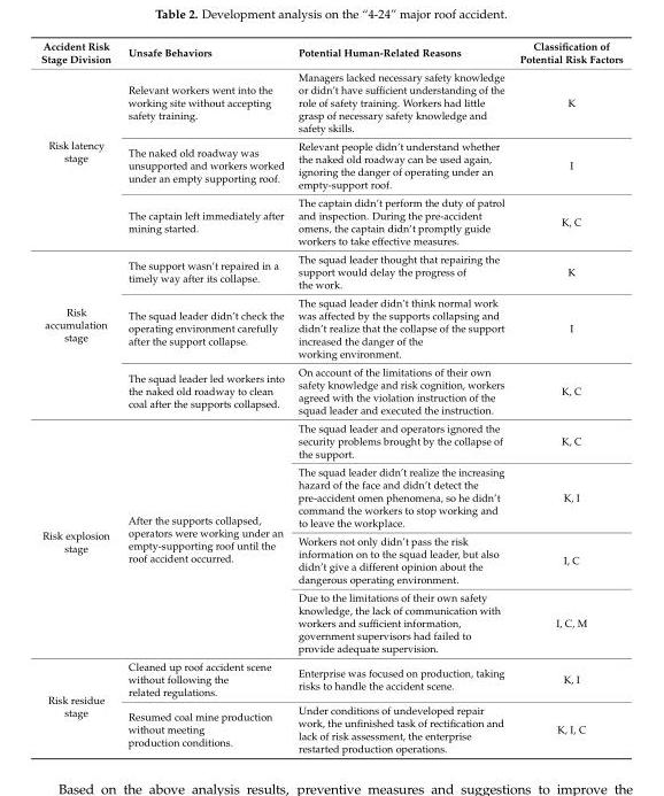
<table><thead><tr><td>Accident Risk Stage Division</td><td>Unsafe Behaviors</td><td>Potential Human-Related Reasons</td><td>Classification of Potential Risk Factors</td></tr></thead><tbody><tr><td rowspan="3">Risk latency stage</td><td>Relevant workers went into the working site without accepting safety training.</td><td>Managers lacked necessary safety knowledge or didn’t have sufficient understanding of the role of safety training. Workers had little grasp of necessary safety knowledge and safety skills.</td><td>K</td></tr><tr><td>The naked old roadway was unsupported and workers worked under an empty supporting roof.</td><td>Relevant people didn’t understand whether the naked old roadway can be used again, ignoring the danger of operating under an empty-support roof.</td><td>I</td></tr><tr><td>The captain left immediately after mining started.</td><td>The captain didn’t perform the duty of patrol and inspection. During the pre-accident omens, the captain didn’t promptly guide workers to take effective measures.</td><td>K, C</td></tr><tr><td rowspan="3">Risk accumulation stage</td><td>The support wasn’t repaired in a timely way after its collapse.</td><td>The squad leader thought that repairing the support would delay the progress of the work.</td><td>K</td></tr><tr><td>The squad leader didn’t check the operating environment carefully after the support collapse.</td><td>The squad leader didn’t think normal work was affected by the supports collapsing and didn’t realize that the collapse of the support increased the danger of the working environment.</td><td>I</td></tr><tr><td>The squad leader led workers into the naked old roadway to clean coal after the supports collapsed.</td><td>On account of the limitations of their own safety knowledge and risk cognition, workers agreed with the violation instruction of the squad leader and executed the instruction.</td><td>K, C</td></tr><tr><td rowspan="4">Risk explosion stage</td><td rowspan="4">After the supports collapsed, operators were working under an empty-supporting roof until the roof accident occurred.</td><td>The squad leader and operators ignored the security problems brought by the collapse of the support.</td><td>K, C</td></tr><tr><td>The squad leader didn’t realize the increasing hazard of the face and didn’t detect the pre-accident omen phenomena, so he didn’t command the workers to stop working and to leave the workplace.</td><td>K, I</td></tr><tr><td>Workers not only didn’t pass the risk information on to the squad leader, but also didn’t give a different opinion about the dangerous operating environment.</td><td>I, C</td></tr><tr><td>Due to the limitations of their own safety knowledge, the lack of communication with workers and sufficient information, government supervisors had failed to provide adequate supervision.</td><td>I, C, M</td></tr><tr><td rowspan="2">Risk residue stage</td><td>Cleaned up roof accident scene without following the related regulations.</td><td>Enterprise was focused on production, taking risks to handle the accident scene.</td><td>K, I</td></tr><tr><td>Resumed coal mine production without meeting production conditions.</td><td>Under conditions of undeveloped repair work, the unfinished task of rectification and lack of risk assessment, the enterprise restarted production operations.</td><td>K, I, C</td></tr></tbody></table>